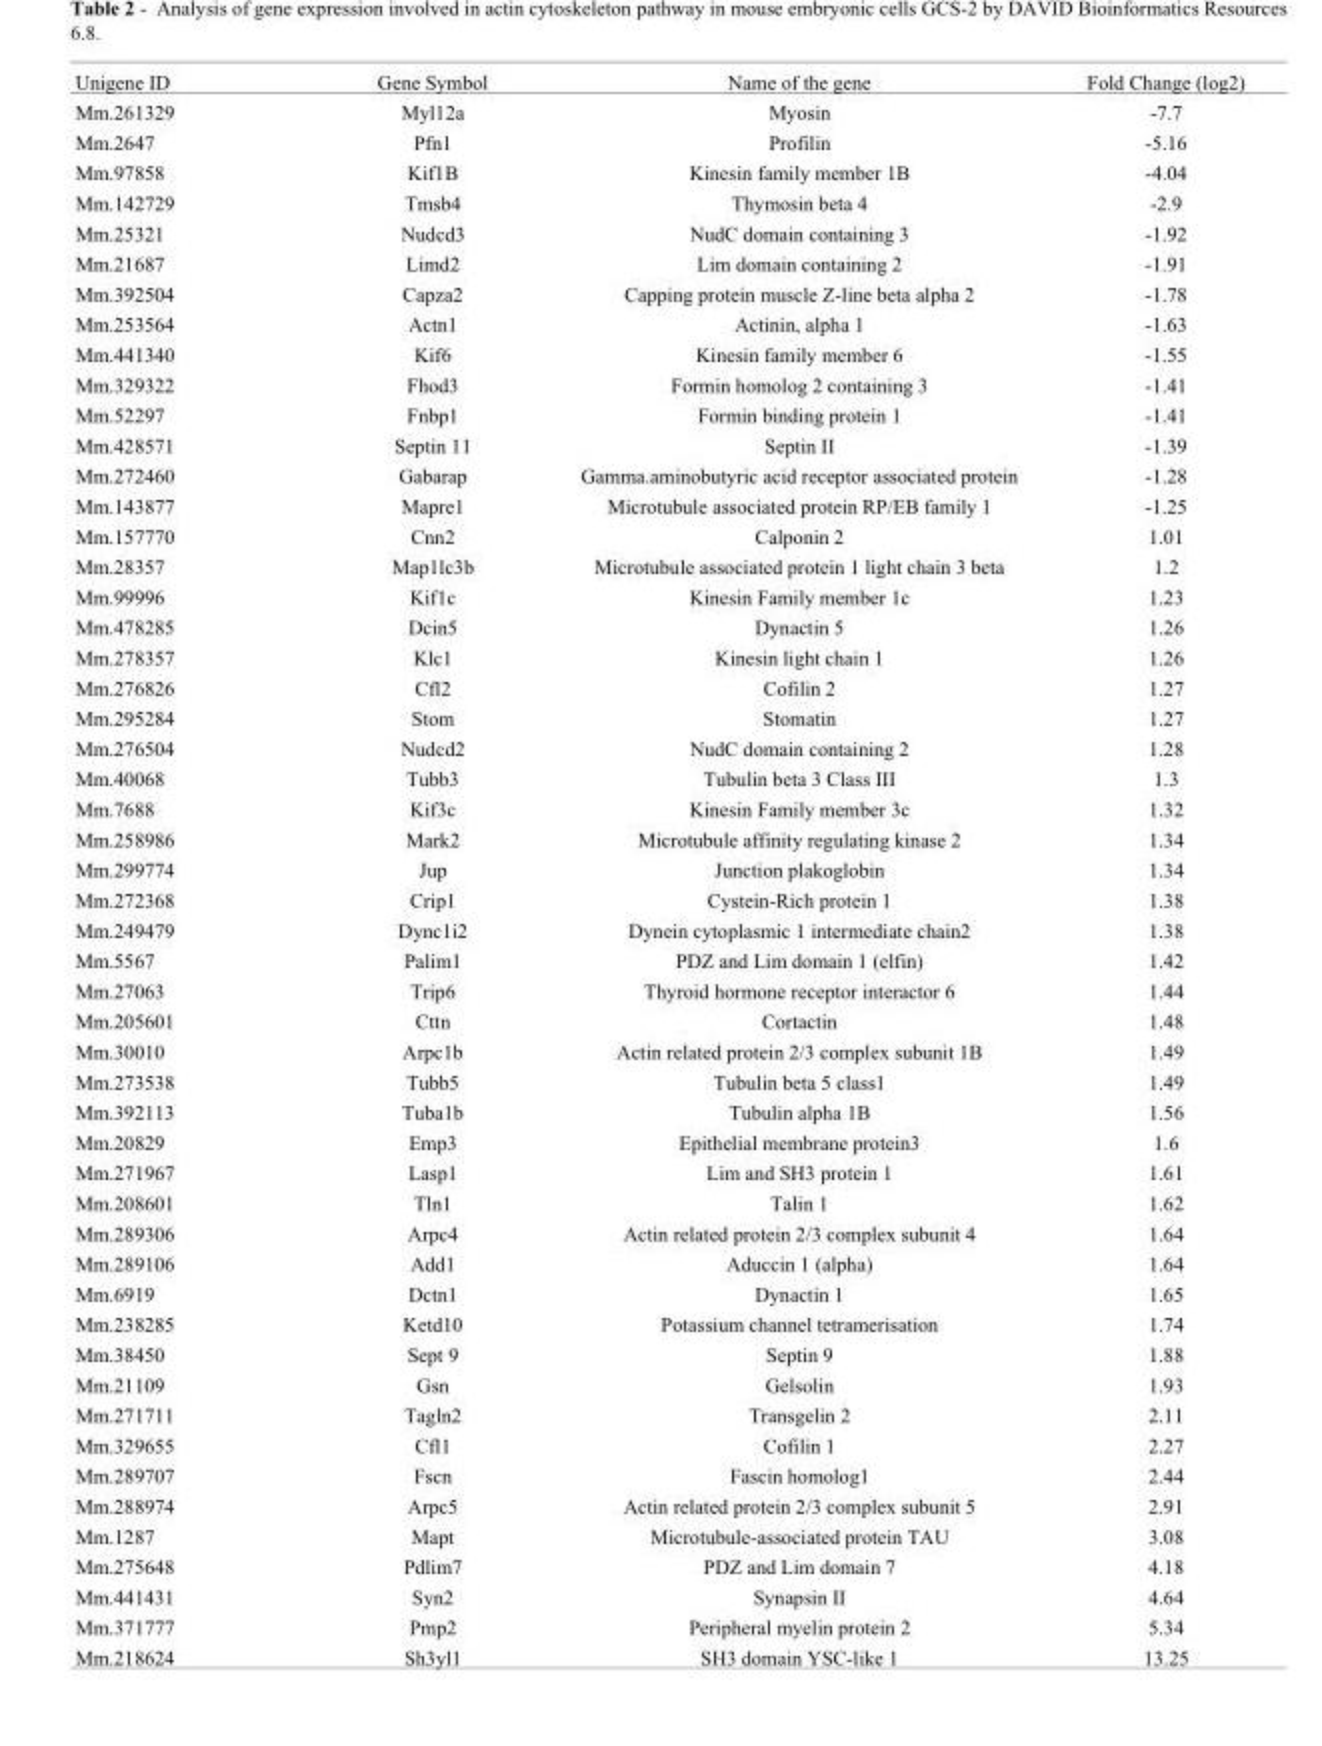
<table><thead><tr><td>Unigene ID</td><td>Gene Symbol</td><td>Name of the gene</td><td>Fold Change (log2)</td></tr></thead><tbody><tr><td>Mm.261329</td><td>Myl12a</td><td>Myosin</td><td>-7.7</td></tr><tr><td>Mm.2647</td><td>Pfn1</td><td>Profilin</td><td>-5.16</td></tr><tr><td>Mm.97858</td><td>Kif1B</td><td>Kinesin family member 1B</td><td>-4.04</td></tr><tr><td>Mm.142729</td><td>Tmsb4</td><td>Thymosin beta 4</td><td>-2.9</td></tr><tr><td>Mm.25321</td><td>Nudcd3</td><td>NudC domain containing 3</td><td>-1.92</td></tr><tr><td>Mm.21687</td><td>Limd2</td><td>Lim domain containing 2</td><td>-1.91</td></tr><tr><td>Mm.392504</td><td>Capza2</td><td>Capping protein muscle Z-line beta alpha 2</td><td>-1.78</td></tr><tr><td>Mm.253564</td><td>Actn1</td><td>Actinin, alpha 1</td><td>-1.63</td></tr><tr><td>Mm.441340</td><td>Kif6</td><td>Kinesin family member 6</td><td>-1.55</td></tr><tr><td>Mm.329322</td><td>Fhod3</td><td>Formin homolog 2 containing 3</td><td>-1.41</td></tr><tr><td>Mm.52297</td><td>Fnbp1</td><td>Formin binding protein 1</td><td>-1.41</td></tr><tr><td>Mm.428571</td><td>Septin 11</td><td>Septin II</td><td>-1.39</td></tr><tr><td>Mm.272460</td><td>Gabarap</td><td>Gamma.aminobutyric acid receptor associated protein</td><td>-1.28</td></tr><tr><td>Mm.143877</td><td>Mapre1</td><td>Microtubule associated protein RP/EB family 1</td><td>-1.25</td></tr><tr><td>Mm.157770</td><td>Cnn2</td><td>Calponin 2</td><td>1.01</td></tr><tr><td>Mm.28357</td><td>Map1lc3b</td><td>Microtubule associated protein 1 light chain 3 beta</td><td>1.2</td></tr><tr><td>Mm.99996</td><td>Kif1c</td><td>Kinesin Family member 1c</td><td>1.23</td></tr><tr><td>Mm.478285</td><td>Dcin5</td><td>Dynactin 5</td><td>1.26</td></tr><tr><td>Mm.278357</td><td>Klc1</td><td>Kinesin light chain 1</td><td>1.26</td></tr><tr><td>Mm.276826</td><td>Cfl2</td><td>Cofilin 2</td><td>1.27</td></tr><tr><td>Mm.295284</td><td>Stom</td><td>Stomatin</td><td>1.27</td></tr><tr><td>Mm.276504</td><td>Nudcd2</td><td>NudC domain containing 2</td><td>1.28</td></tr><tr><td>Mm.40068</td><td>Tubb3</td><td>Tubulin beta 3 Class III</td><td>1.3</td></tr><tr><td>Mm.7688</td><td>Kif3c</td><td>Kinesin Family member 3c</td><td>1.32</td></tr><tr><td>Mm.258986</td><td>Mark2</td><td>Microtubule affinity regulating kinase 2</td><td>1.34</td></tr><tr><td>Mm.299774</td><td>Jup</td><td>Junction plakoglobin</td><td>1.34</td></tr><tr><td>Mm.272368</td><td>Crip1</td><td>Cystein-Rich protein 1</td><td>1.38</td></tr><tr><td>Mm.249479</td><td>Dync1i2</td><td>Dynein cytoplasmic 1 intermediate chain2</td><td>1.38</td></tr><tr><td>Mm.5567</td><td>Palim1</td><td>PDZ and Lim domain 1 (elfin)</td><td>1.42</td></tr><tr><td>Mm.27063</td><td>Trip6</td><td>Thyroid hormone receptor interactor 6</td><td>1.44</td></tr><tr><td>Mm.205601</td><td>Cttn</td><td>Cortactin</td><td>1.48</td></tr><tr><td>Mm.30010</td><td>Arpc1b</td><td>Actin related protein 2/3 complex subunit 1B</td><td>1.49</td></tr><tr><td>Mm.273538</td><td>Tubb5</td><td>Tubulin beta 5 class1</td><td>1.49</td></tr><tr><td>Mm.392113</td><td>Tuba1b</td><td>Tubulin alpha 1B</td><td>1.56</td></tr><tr><td>Mm.20829</td><td>Emp3</td><td>Epithelial membrane protein3</td><td>1.6</td></tr><tr><td>Mm.271967</td><td>Lasp1</td><td>Lim and SH3 protein 1</td><td>1.61</td></tr><tr><td>Mm.208601</td><td>Tln1</td><td>Talin 1</td><td>1.62</td></tr><tr><td>Mm.289306</td><td>Arpc4</td><td>Actin related protein 2/3 complex subunit 4</td><td>1.64</td></tr><tr><td>Mm.289106</td><td>Add1</td><td>Aduccin 1 (alpha)</td><td>1.64</td></tr><tr><td>Mm.6919</td><td>Dctn1</td><td>Dynactin 1</td><td>1.65</td></tr><tr><td>Mm.238285</td><td>Ketd10</td><td>Potassium channel tetramerisation</td><td>1.74</td></tr><tr><td>Mm.38450</td><td>Sept 9</td><td>Septin 9</td><td>1.88</td></tr><tr><td>Mm.21109</td><td>Gsn</td><td>Gelsolin</td><td>1.93</td></tr><tr><td>Mm.271711</td><td>Tagln2</td><td>Transgelin 2</td><td>2.11</td></tr><tr><td>Mm.329655</td><td>Cfl1</td><td>Cofilin 1</td><td>2.27</td></tr><tr><td>Mm.289707</td><td>Fscn</td><td>Fascin homolog1</td><td>2.44</td></tr><tr><td>Mm.288974</td><td>Arpc5</td><td>Actin related protein 2/3 complex subunit 5</td><td>2.91</td></tr><tr><td>Mm.1287</td><td>Mapt</td><td>Microtubule-associated protein TAU</td><td>3.08</td></tr><tr><td>Mm.275648</td><td>Pdlim7</td><td>PDZ and Lim domain 7</td><td>4.18</td></tr><tr><td>Mm.441431</td><td>Syn2</td><td>Synapsin II</td><td>4.64</td></tr><tr><td>Mm.371777</td><td>Pmp2</td><td>Peripheral myelin protein 2</td><td>5.34</td></tr><tr><td>Mm.218624</td><td>Sh3yl1</td><td>SH3 domain YSC-like 1</td><td>13.25</td></tr></tbody></table>